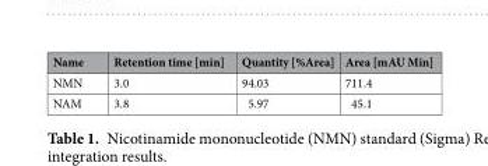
<table><thead><tr><td>Name</td><td>Retention time [min]</td><td>Quantity [%Area]</td><td>Area [mAU Min]</td></tr></thead><tbody><tr><td>NMN</td><td>3.0</td><td>94.03</td><td>711.4</td></tr><tr><td>NAM</td><td>3.8</td><td>5.97</td><td>45.1</td></tr></tbody></table>